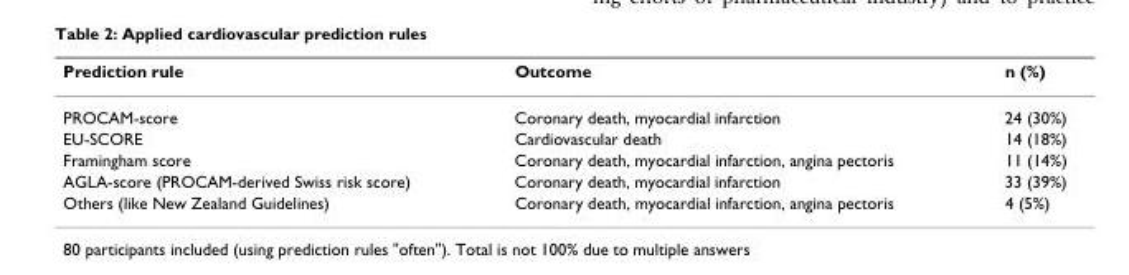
<table><thead><tr><td>Prediction rule</td><td>Outcome</td><td>n (%)</td></tr></thead><tbody><tr><td>PROCAM-score</td><td>Coronary death, myocardial infarction</td><td>24 (30%)</td></tr><tr><td>EU-SCORE</td><td>Cardiovascular death</td><td>14 (18%)</td></tr><tr><td>Framingham score</td><td>Coronary death, myocardial infarction, angina pectoris</td><td>11 (14%)</td></tr><tr><td>AGLA-score (PROCAM-derived Swiss risk score)</td><td>Coronary death, myocardial infarction</td><td>33 (39%)</td></tr><tr><td>Others (like New Zealand Guidelines)</td><td>Coronary death, myocardial infarction, angina pectoris</td><td>4 (5%)</td></tr></tbody></table>